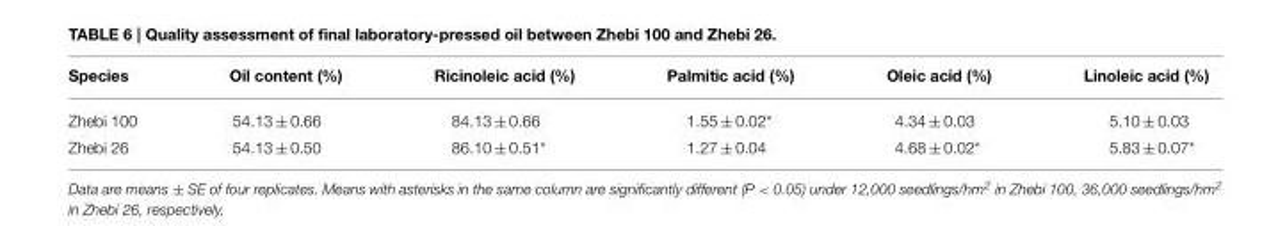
<table><thead><tr><td>Species</td><td>Oil content (%)</td><td>Ricinoleic acid (%)</td><td>Palmitic acid (%)</td><td>Oleic acid (%)</td><td>Linoleic acid (%)</td></tr></thead><tbody><tr><td>Zhebi 100</td><td>54.13 ± 0.66</td><td>84.13 ± 0.66</td><td>1.55 ± 0.02*</td><td>4.34 ± 0.03</td><td>5.10 ± 0.03</td></tr><tr><td>Zhebi 26</td><td>54.13 ± 0.50</td><td>86.10 ± 0.51*</td><td>1.27 ± 0.04</td><td>4.68 ± 0.02*</td><td>5.83 ± 0.07*</td></tr></tbody></table>